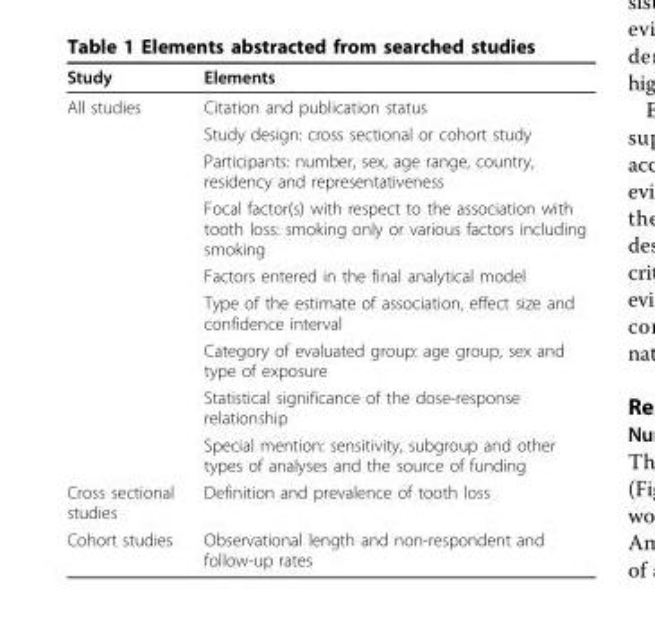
<table><thead><tr><td>Study</td><td>Elements</td></tr></thead><tbody><tr><td rowspan="9">All studies</td><td>Citation and publication status</td></tr><tr><td>Study design: cross sectional or cohort study</td></tr><tr><td>Participants: number, sex, age range, country, residency and representativeness</td></tr><tr><td>Focal factor(s) with respect to the association with tooth loss: smoking only or various factors including smoking</td></tr><tr><td>Factors entered in the final analytical model</td></tr><tr><td>Type of the estimate of association, effect size and confidence interval</td></tr><tr><td>Category of evaluated group: age group, sex and type of exposure</td></tr><tr><td>Statistical significance of the dose-response relationship</td></tr><tr><td>Special mention: sensitivity, subgroup and other types of analyses and the source of funding</td></tr><tr><td>Cross sectional studies</td><td>Definition and prevalence of tooth loss</td></tr><tr><td>Cohort studies</td><td>Observational length and non-respondent and follow-up rates</td></tr></tbody></table>